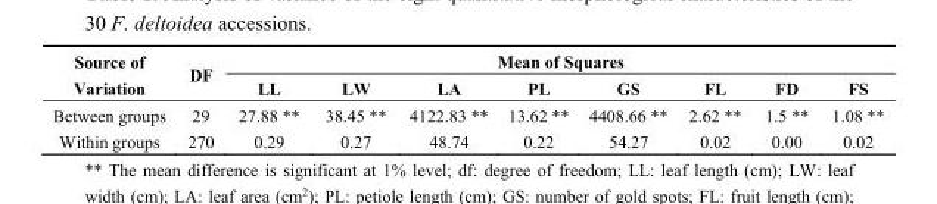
<table><thead><tr><td rowspan="2">Source of Variation</td><td rowspan="2">DF</td><td colspan="8">Mean of Squares</td></tr><tr><td>LL</td><td>LW</td><td>LA</td><td>PL</td><td>GS</td><td>FL</td><td>FD</td><td>FS</td></tr></thead><tbody><tr><td>Between groups</td><td>29</td><td>27.88 **</td><td>38.45 **</td><td>4122.83 **</td><td>13.62 **</td><td>4408.66 **</td><td>2.62 **</td><td>1.5 **</td><td>1.08 **</td></tr><tr><td>Within groups</td><td>270</td><td>0.29</td><td>0.27</td><td>48.74</td><td>0.22</td><td>54.27</td><td>0.02</td><td>0.00</td><td>0.02</td></tr></tbody></table>